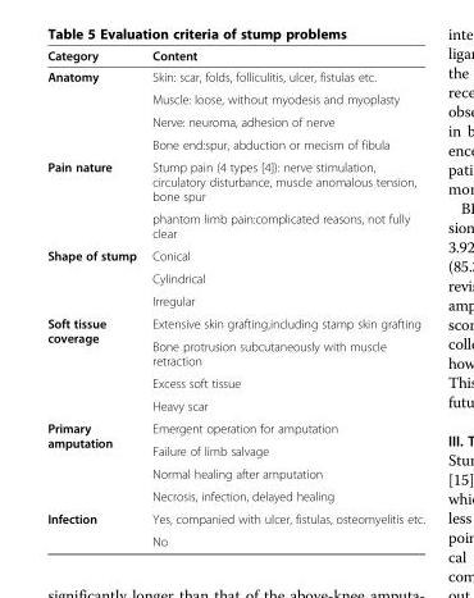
<table><thead><tr><td>Category</td><td>Content</td></tr></thead><tbody><tr><td rowspan="4">Anatomy</td><td>Skin: scar, folds, folliculitis, ulcer, fistulas etc.</td></tr><tr><td>Muscle: loose, without myodesis and myoplasty</td></tr><tr><td>Nerve: neuroma, adhesion of nerve</td></tr><tr><td>Bone end:spur, abduction or mecism of fibula</td></tr><tr><td rowspan="2">Pain nature</td><td>Stump pain (4 types [4]): nerve stimulation, circulatory disturbance, muscle anomalous tension, bone spur</td></tr><tr><td>phantom limb pain:complicated reasons, not fully clear</td></tr><tr><td rowspan="3">Shape of stump</td><td>Conical</td></tr><tr><td>Cylindrical</td></tr><tr><td>Irregular</td></tr><tr><td rowspan="4">Soft tissue coverage</td><td>Extensive skin grafting,including stamp skin grafting</td></tr><tr><td>Bone protrusion subcutaneously with muscle retraction</td></tr><tr><td>Excess soft tissue</td></tr><tr><td>Heavy scar</td></tr><tr><td rowspan="4">Primary amputation</td><td>Emergent operation for amputation</td></tr><tr><td>Failure of limb salvage</td></tr><tr><td>Normal healing after amputation</td></tr><tr><td>Necrosis, infection, delayed healing</td></tr><tr><td rowspan="2">Infection</td><td>Yes, companied with ulcer, fistulas, osteomyelitis etc.</td></tr><tr><td>No</td></tr></tbody></table>